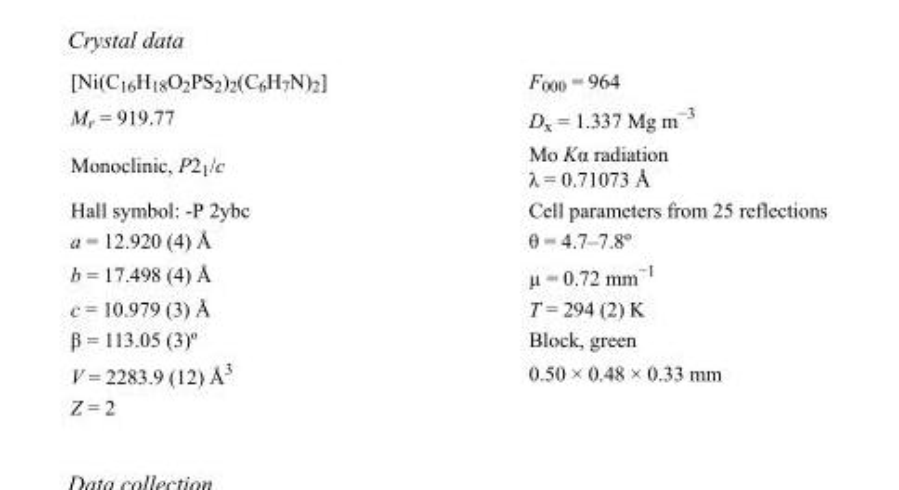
<table><tbody><tr><td>[Ni(C<sub>16</sub>H<sub>18</sub>O<sub>2</sub>PS<sub>2</sub>)<sub>2</sub>(C<sub>6</sub>H<sub>7</sub>N)<sub>2</sub>]</td><td>F<sub>000</sub> = 964</td></tr><tr><td>M<sub>r</sub> = 919.77</td><td>D<sub>x</sub> = 1.337 Mg m<sup>−3</sup></td></tr><tr><td>Monoclinic, P2<sub>1</sub>/c</td><td>Mo Kα radiation λ = 0.71073 Å</td></tr><tr><td>Hall symbol: -P 2ybc</td><td>Cell parameters from 25 reflections</td></tr><tr><td>a = 12.920 (4) Å</td><td>θ = 4.7–7.8º</td></tr><tr><td>b = 17.498 (4) Å</td><td>µ = 0.72 mm<sup>−1</sup></td></tr><tr><td>c = 10.979 (3) Å</td><td>T = 294 (2) K</td></tr><tr><td>β = 113.05 (3)º</td><td>Block, green</td></tr><tr><td>V = 2283.9 (12) Å<sup>3</sup></td><td>0.50 × 0.48 × 0.33 mm</td></tr><tr><td>Z = 2</td><td></td></tr></tbody></table>